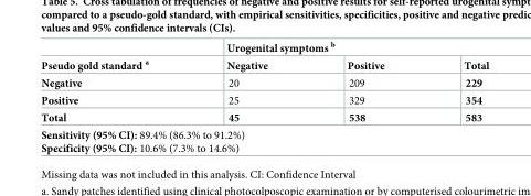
<table><thead><tr><td rowspan="2">Pseudo gold standard <sup>a</sup></td><td colspan="3">Urogenital symptoms <sup>b</sup></td></tr><tr><td>Negative</td><td>Positive</td><td>Total</td></tr></thead><tbody><tr><td>Negative</td><td>20</td><td>209</td><td>229</td></tr><tr><td>Positive</td><td>25</td><td>329</td><td>354</td></tr><tr><td>Total</td><td>45</td><td>538</td><td>583</td></tr><tr><td colspan="4">Sensitivity (95% CI): 89.4% (86.3% to 91.2%) Specificity (95% CI): 10.6% (7.3% to 14.6%)</td></tr></tbody></table>